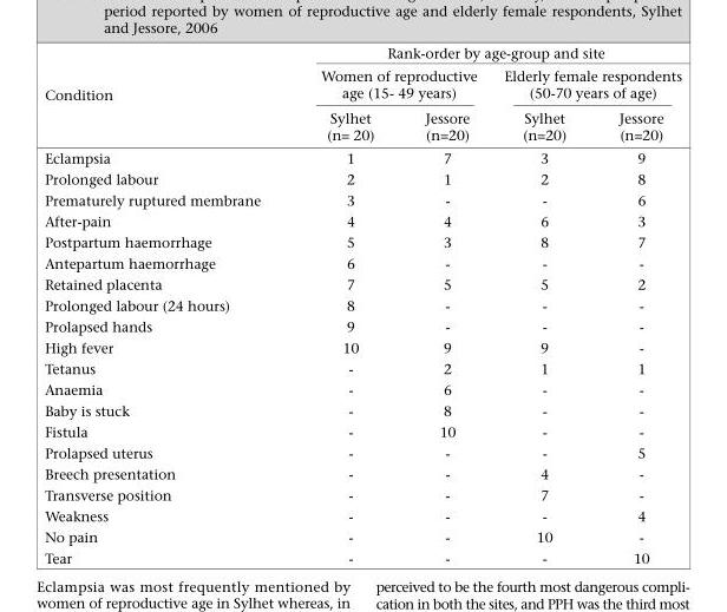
<table><thead><tr><td rowspan="3">Condition</td><td colspan="4">Rank-order by age-group and site</td></tr><tr><td colspan="2">Women of reproductive age (15- 49 years)</td><td colspan="2">Elderly female respondents (50-70 years of age)</td></tr><tr><td>Sylhet (n= 20)</td><td>Jessore (n=20)</td><td>Sylhet (n=20)</td><td>Jessore (n=20)</td></tr></thead><tbody><tr><td>Eclampsia</td><td>1</td><td>7</td><td>3</td><td>9</td></tr><tr><td>Prolonged labour</td><td>2</td><td>1</td><td>2</td><td>8</td></tr><tr><td>Prematurely ruptured membrane</td><td>3</td><td>-</td><td>-</td><td>6</td></tr><tr><td>After-pain</td><td>4</td><td>4</td><td>6</td><td>3</td></tr><tr><td>Postpartum haemorrhage</td><td>5</td><td>3</td><td>8</td><td>7</td></tr><tr><td>Antepartum haemorrhage</td><td>6</td><td>-</td><td>-</td><td>-</td></tr><tr><td>Retained placenta</td><td>7</td><td>5</td><td>5</td><td>2</td></tr><tr><td>Prolonged labour (24 hours)</td><td>8</td><td>-</td><td>-</td><td>-</td></tr><tr><td>Prolapsed hands</td><td>9</td><td>-</td><td>-</td><td>-</td></tr><tr><td>High fever</td><td>10</td><td>9</td><td>9</td><td>-</td></tr><tr><td>Tetanus</td><td>-</td><td>2</td><td>1</td><td>1</td></tr><tr><td>Anaemia</td><td>-</td><td>6</td><td>-</td><td>-</td></tr><tr><td>Baby is stuck</td><td>-</td><td>8</td><td>-</td><td>-</td></tr><tr><td>Fistula</td><td>-</td><td>10</td><td>-</td><td>-</td></tr><tr><td>Prolapsed uterus</td><td>-</td><td>-</td><td>-</td><td>5</td></tr><tr><td>Breech presentation</td><td>-</td><td>-</td><td>4</td><td>-</td></tr><tr><td>Transverse position</td><td>-</td><td>-</td><td>7</td><td>-</td></tr><tr><td>Weakness</td><td>-</td><td>-</td><td>-</td><td>4</td></tr><tr><td>No pain</td><td>-</td><td>-</td><td>10</td><td>-</td></tr><tr><td>Tear</td><td>-</td><td>-</td><td>-</td><td>10</td></tr></tbody></table>